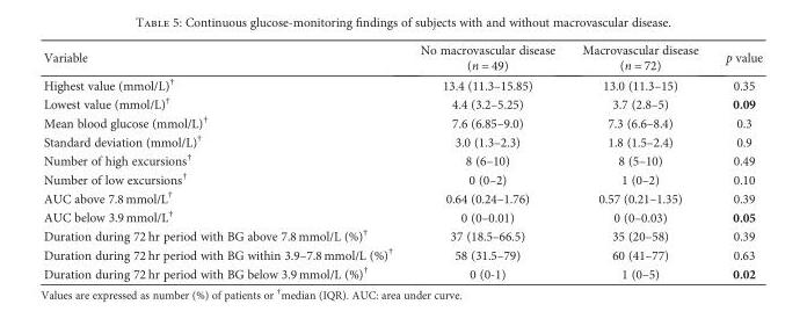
<table><thead><tr><td>Variable</td><td>No macrovascular disease (n = 49)</td><td>Macrovascular disease (n = 72)</td><td>p value</td></tr></thead><tbody><tr><td>Highest value (mmol/L)<sup>†</sup></td><td>13.4 (11.3–15.85)</td><td>13.0 (11.3–15)</td><td>0.35</td></tr><tr><td>Lowest value (mmol/L)<sup>†</sup></td><td>4.4 (3.2–5.25)</td><td>3.7 (2.8–5)</td><td>0.09</td></tr><tr><td>Mean blood glucose (mmol/L)<sup>†</sup></td><td>7.6 (6.85–9.0)</td><td>7.3 (6.6–8.4)</td><td>0.3</td></tr><tr><td>Standard deviation (mmol/L)<sup>†</sup></td><td>3.0 (1.3–2.3)</td><td>1.8 (1.5–2.4)</td><td>0.9</td></tr><tr><td>Number of high excursions<sup>†</sup></td><td>8 (6–10)</td><td>8 (5–10)</td><td>0.49</td></tr><tr><td>Number of low excursions<sup>†</sup></td><td>0 (0–2)</td><td>1 (0–2)</td><td>0.10</td></tr><tr><td>AUC above 7.8 mmol/L<sup>†</sup></td><td>0.64 (0.24–1.76)</td><td>0.57 (0.21–1.35)</td><td>0.39</td></tr><tr><td>AUC below 3.9 mmol/L<sup>†</sup></td><td>0 (0–0.01)</td><td>0 (0–0.03)</td><td>0.05</td></tr><tr><td>Duration during 72 hr period with BG above 7.8 mmol/L (%)<sup>†</sup></td><td>37 (18.5–66.5)</td><td>35 (20–58)</td><td>0.39</td></tr><tr><td>Duration during 72 hr period with BG within 3.9–7.8 mmol/L (%)<sup>†</sup></td><td>58 (31.5–79)</td><td>60 (41–77)</td><td>0.63</td></tr><tr><td>Duration during 72 hr period with BG below 3.9 mmol/L (%)<sup>†</sup></td><td>0 (0-1)</td><td>1 (0–5)</td><td>0.02</td></tr></tbody></table>